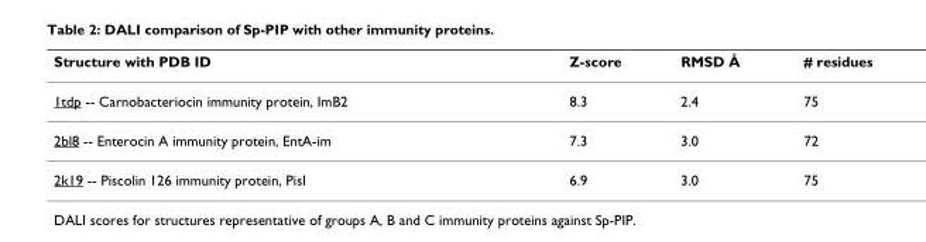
<table><thead><tr><td>Structure with PDB ID</td><td>Z-score</td><td>RMSD Å</td><td># residues</td></tr></thead><tbody><tr><td>1tdp -- Carnobacteriocin immunity protein, ImB2</td><td>8.3</td><td>2.4</td><td>75</td></tr><tr><td>2bl8 -- Enterocin A immunity protein, EntA-im</td><td>7.3</td><td>3.0</td><td>72</td></tr><tr><td>2k19 -- Piscolin 126 immunity protein, PisI</td><td>6.9</td><td>3.0</td><td>75</td></tr></tbody></table>